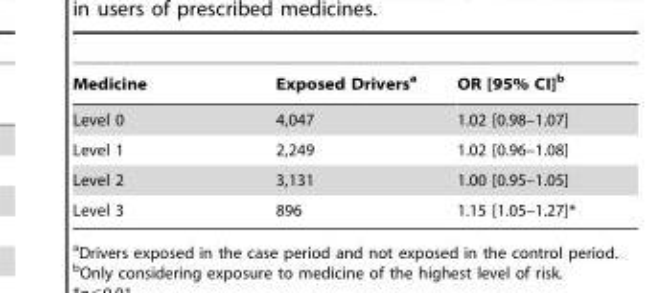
<table><thead><tr><td>Medicine</td><td>Exposed Drivers<sup>a</sup></td><td>OR [95% CI]<sup>b</sup></td></tr></thead><tbody><tr><td>Level 0</td><td>4,047</td><td>1.02 [0.98–1.07]</td></tr><tr><td>Level 1</td><td>2,249</td><td>1.02 [0.96–1.08]</td></tr><tr><td>Level 2</td><td>3,131</td><td>1.00 [0.95–1.05]</td></tr><tr><td>Level 3</td><td>896</td><td>1.15 [1.05–1.27]*</td></tr></tbody></table>